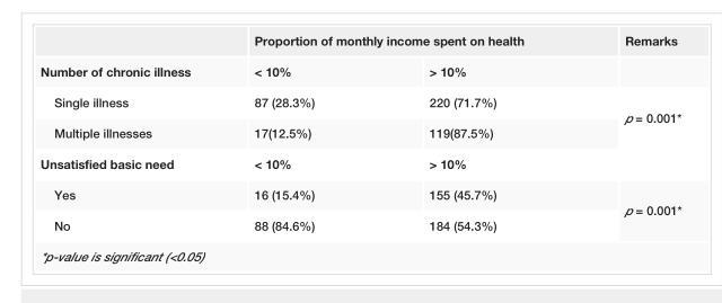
<table><thead><tr><td rowspan="2">Number of chronic illness</td><td colspan="2">Proportion of monthly income spent on health</td><td rowspan="2">Remarks</td></tr><tr><td>&lt; 10%</td><td>&gt; 10%</td></tr></thead><tbody><tr><td>Single illness</td><td>87 (28.3%)</td><td>220 (71.7%)</td><td rowspan="2">p = 0.001*</td></tr><tr><td>Multiple illnesses</td><td>17(12.5%)</td><td>119(87.5%)</td></tr><tr><td>Unsatisfied basic need</td><td>&lt; 10%</td><td>&gt; 10%</td><td></td></tr><tr><td>Yes</td><td>16 (15.4%)</td><td>155 (45.7%)</td><td rowspan="2">p = 0.001*</td></tr><tr><td>No</td><td>88 (84.6%)</td><td>184 (54.3%)</td></tr><tr><td colspan="4">*p-value is significant (&lt;0.05)</td></tr></tbody></table>